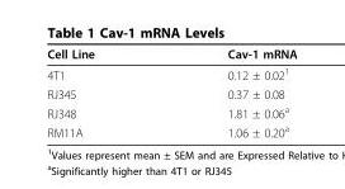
<table><thead><tr><td>Cell Line</td><td>Cav-1 mRNA</td></tr></thead><tbody><tr><td>4T1</td><td>0.12 ± 0.02<sup>1</sup></td></tr><tr><td>RJ345</td><td>0.37 ± 0.08</td></tr><tr><td>RJ348</td><td>1.81 ± 0.06<sup>a</sup></td></tr><tr><td>RM11A</td><td>1.06 ± 0.20<sup>a</sup></td></tr></tbody></table>